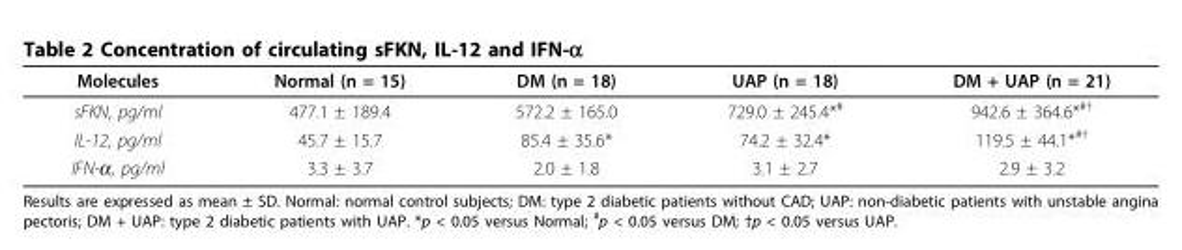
<table><thead><tr><td>Molecules</td><td>Normal (n = 15)</td><td>DM (n = 18)</td><td>UAP (n = 18)</td><td>DM + UAP (n = 21)</td></tr></thead><tbody><tr><td>sFKN, pg/ml</td><td>477.1 ± 189.4</td><td>572.2 ± 165.0</td><td>729.0 ± 245.4*<sup>#</sup></td><td>942.6 ± 364.6*<sup>#†</sup></td></tr><tr><td>IL-12, pg/ml</td><td>45.7 ± 15.7</td><td>85.4 ± 35.6*</td><td>74.2 ± 32.4*</td><td>119.5 ± 44.1*<sup>#†</sup></td></tr><tr><td>IFN-α, pg/ml</td><td>3.3 ± 3.7</td><td>2.0 ± 1.8</td><td>3.1 ± 2.7</td><td>2.9 ± 3.2</td></tr></tbody></table>